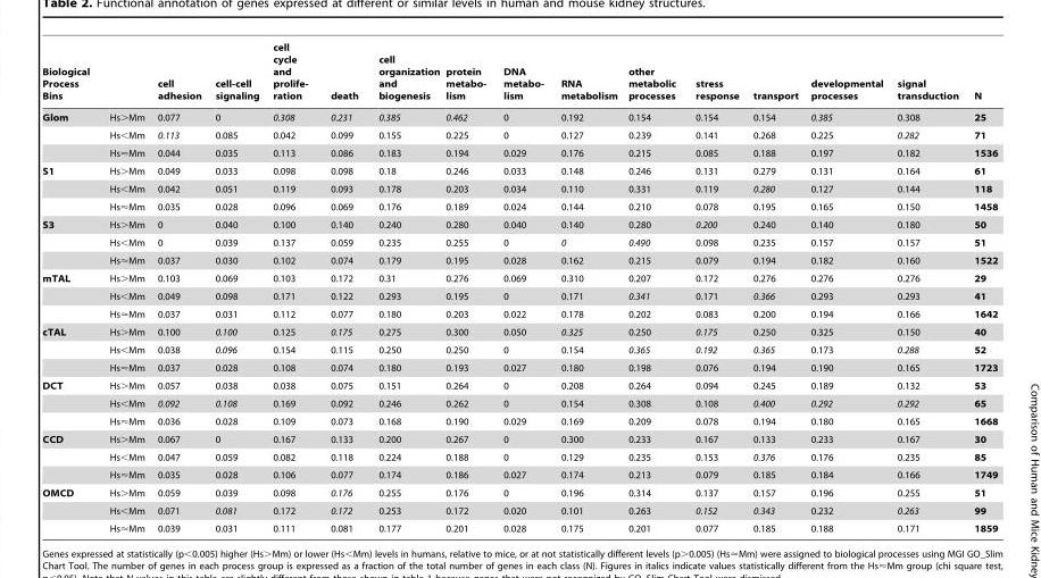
<table><thead><tr><td>Biological Process Bins</td><td></td><td>cell adhesion</td><td>cell-cell signaling</td><td>cell cycle and prolife- ration</td><td>death</td><td>cell organization and biogenesis</td><td>protein metabo- lism</td><td>DNA metabo- lism</td><td>RNA metabolism</td><td>other metabolic processes</td><td>stress response</td><td>transport</td><td>developmental processes</td><td>signal transduction</td><td>N</td></tr></thead><tbody><tr><td rowspan="3">Glom</td><td>Hs&gt;Mm</td><td>0.077</td><td>0</td><td>0.308</td><td>0.231</td><td>0.385</td><td>0.462</td><td>0</td><td>0.192</td><td>0.154</td><td>0.154</td><td>0.154</td><td>0.385</td><td>0.308</td><td>25</td></tr><tr><td>Hs&lt;Mm</td><td>0.113</td><td>0.085</td><td>0.042</td><td>0.099</td><td>0.155</td><td>0.225</td><td>0</td><td>0.127</td><td>0.239</td><td>0.141</td><td>0.268</td><td>0.225</td><td>0.282</td><td>71</td></tr><tr><td>Hs&lt;Mm</td><td>0.044</td><td>0.035</td><td>0.113</td><td>0.086</td><td>0.183</td><td>0.194</td><td>0.029</td><td>0.176</td><td>0.215</td><td>0.085</td><td>0.188</td><td>0.197</td><td>0.182</td><td>1536</td></tr><tr><td rowspan="3">S1</td><td>Hs&gt;Mm</td><td>0.049</td><td>0.033</td><td>0.098</td><td>0.098</td><td>0.18</td><td>0.246</td><td>0.033</td><td>0.148</td><td>0.246</td><td>0.131</td><td>0.279</td><td>0.131</td><td>0.164</td><td>61</td></tr><tr><td>Hs&lt;Mm</td><td>0.042</td><td>0.051</td><td>0.119</td><td>0.093</td><td>0.178</td><td>0.203</td><td>0.034</td><td>0.110</td><td>0.331</td><td>0.119</td><td>0.280</td><td>0.127</td><td>0.144</td><td>118</td></tr><tr><td>Hs&lt;Mm</td><td>0.035</td><td>0.028</td><td>0.096</td><td>0.069</td><td>0.176</td><td>0.189</td><td>0.024</td><td>0.144</td><td>0.210</td><td>0.078</td><td>0.195</td><td>0.165</td><td>0.150</td><td>1458</td></tr><tr><td rowspan="3">S3</td><td>Hs&gt;Mm</td><td>0</td><td>0.040</td><td>0.100</td><td>0.140</td><td>0.240</td><td>0.280</td><td>0.040</td><td>0.140</td><td>0.280</td><td>0.200</td><td>0.240</td><td>0.140</td><td>0.180</td><td>50</td></tr><tr><td>Hs&lt;Mm</td><td>0</td><td>0.039</td><td>0.137</td><td>0.059</td><td>0.235</td><td>0.255</td><td>0</td><td>0</td><td>0.490</td><td>0.098</td><td>0.235</td><td>0.157</td><td>0.157</td><td>51</td></tr><tr><td>Hs&lt;Mm</td><td>0.037</td><td>0.030</td><td>0.102</td><td>0.074</td><td>0.179</td><td>0.195</td><td>0.028</td><td>0.162</td><td>0.215</td><td>0.079</td><td>0.194</td><td>0.182</td><td>0.160</td><td>1522</td></tr><tr><td rowspan="3">mTAL</td><td>Hs&gt;Mm</td><td>0.103</td><td>0.069</td><td>0.103</td><td>0.172</td><td>0.31</td><td>0.276</td><td>0.069</td><td>0.310</td><td>0.207</td><td>0.172</td><td>0.276</td><td>0.276</td><td>0.276</td><td>29</td></tr><tr><td>Hs&lt;Mm</td><td>0.049</td><td>0.098</td><td>0.171</td><td>0.122</td><td>0.293</td><td>0.195</td><td>0</td><td>0.171</td><td>0.341</td><td>0.171</td><td>0.366</td><td>0.293</td><td>0.293</td><td>41</td></tr><tr><td>Hs&lt;Mm</td><td>0.037</td><td>0.031</td><td>0.112</td><td>0.077</td><td>0.180</td><td>0.203</td><td>0.022</td><td>0.178</td><td>0.202</td><td>0.083</td><td>0.200</td><td>0.194</td><td>0.166</td><td>1642</td></tr><tr><td rowspan="3">cTAL</td><td>Hs&gt;Mm</td><td>0.100</td><td>0.100</td><td>0.125</td><td>0.175</td><td>0.275</td><td>0.300</td><td>0.050</td><td>0.325</td><td>0.250</td><td>0.175</td><td>0.250</td><td>0.325</td><td>0.150</td><td>40</td></tr><tr><td>Hs&lt;Mm</td><td>0.038</td><td>0.096</td><td>0.154</td><td>0.115</td><td>0.250</td><td>0.250</td><td>0</td><td>0.154</td><td>0.365</td><td>0.192</td><td>0.365</td><td>0.173</td><td>0.288</td><td>52</td></tr><tr><td>Hs&lt;Mm</td><td>0.037</td><td>0.028</td><td>0.108</td><td>0.074</td><td>0.180</td><td>0.193</td><td>0.027</td><td>0.180</td><td>0.198</td><td>0.076</td><td>0.194</td><td>0.190</td><td>0.165</td><td>1723</td></tr><tr><td rowspan="3">DCT</td><td>Hs&gt;Mm</td><td>0.057</td><td>0.038</td><td>0.038</td><td>0.075</td><td>0.151</td><td>0.264</td><td>0</td><td>0.208</td><td>0.264</td><td>0.094</td><td>0.245</td><td>0.189</td><td>0.132</td><td>53</td></tr><tr><td>Hs&lt;Mm</td><td>0.092</td><td>0.108</td><td>0.169</td><td>0.092</td><td>0.246</td><td>0.262</td><td>0</td><td>0.154</td><td>0.308</td><td>0.108</td><td>0.400</td><td>0.292</td><td>0.292</td><td>65</td></tr><tr><td>Hs&lt;Mm</td><td>0.036</td><td>0.028</td><td>0.109</td><td>0.073</td><td>0.168</td><td>0.190</td><td>0.029</td><td>0.169</td><td>0.209</td><td>0.078</td><td>0.194</td><td>0.180</td><td>0.165</td><td>1668</td></tr><tr><td rowspan="3">CCD</td><td>Hs&gt;Mm</td><td>0.067</td><td>0</td><td>0.167</td><td>0.133</td><td>0.200</td><td>0.267</td><td>0</td><td>0.300</td><td>0.233</td><td>0.167</td><td>0.133</td><td>0.233</td><td>0.167</td><td>30</td></tr><tr><td>Hs&lt;Mm</td><td>0.047</td><td>0.059</td><td>0.082</td><td>0.118</td><td>0.224</td><td>0.188</td><td>0</td><td>0.129</td><td>0.235</td><td>0.153</td><td>0.376</td><td>0.176</td><td>0.235</td><td>85</td></tr><tr><td>Hs&lt;Mm</td><td>0.035</td><td>0.028</td><td>0.106</td><td>0.077</td><td>0.174</td><td>0.186</td><td>0.027</td><td>0.174</td><td>0.213</td><td>0.079</td><td>0.185</td><td>0.184</td><td>0.166</td><td>1749</td></tr><tr><td rowspan="3">OMCD</td><td>Hs&gt;Mm</td><td>0.059</td><td>0.039</td><td>0.098</td><td>0.176</td><td>0.255</td><td>0.176</td><td>0</td><td>0.196</td><td>0.314</td><td>0.137</td><td>0.157</td><td>0.196</td><td>0.255</td><td>51</td></tr><tr><td>Hs&lt;Mm</td><td>0.071</td><td>0.081</td><td>0.172</td><td>0.172</td><td>0.253</td><td>0.172</td><td>0.020</td><td>0.101</td><td>0.263</td><td>0.152</td><td>0.343</td><td>0.232</td><td>0.263</td><td>99</td></tr><tr><td>Hs&lt;Mm</td><td>0.039</td><td>0.031</td><td>0.111</td><td>0.081</td><td>0.177</td><td>0.201</td><td>0.028</td><td>0.175</td><td>0.201</td><td>0.077</td><td>0.185</td><td>0.188</td><td>0.171</td><td>1859</td></tr></tbody></table>